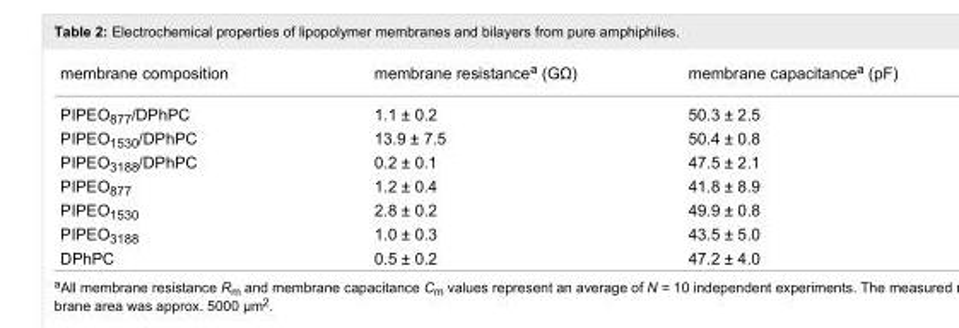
<table><tbody><tr><td>membrane composition</td><td>membrane resistance<sup>a</sup> (GΩ)</td><td>membrane capacitance<sup>a</sup> (pF)</td></tr><tr><td>PIPEO<sub>877</sub>/DPhPC</td><td>1.1 ± 0.2</td><td>50.3 ± 2.5</td></tr><tr><td>PIPEO<sub>1530</sub>/DPhPC</td><td>13.9 ± 7.5</td><td>50.4 ± 0.8</td></tr><tr><td>PIPEO<sub>3188</sub>/DPhPC</td><td>0.2 ± 0.1</td><td>47.5 ± 2.1</td></tr><tr><td>PIPEO<sub>877</sub></td><td>1.2 ± 0.4</td><td>41.8 ± 8.9</td></tr><tr><td>PIPEO<sub>1530</sub></td><td>2.8 ± 0.2</td><td>49.9 ± 0.8</td></tr><tr><td>PIPEO<sub>3188</sub></td><td>1.0 ± 0.3</td><td>43.5 ± 5.0</td></tr><tr><td>DPhPC</td><td>0.5 ± 0.2</td><td>47.2 ± 4.0</td></tr></tbody></table>